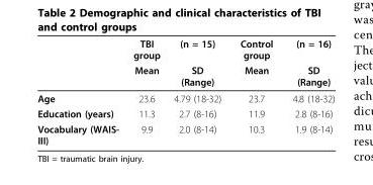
<table><thead><tr><td rowspan="2"></td><td rowspan="2">TBI group Mean</td><td rowspan="2">(n = 15) SD (Range)</td><td rowspan="2">Control group Mean</td><td rowspan="2">(n = 16) SD (Range)</td></tr><tr></tr></thead><tbody><tr><td>Age</td><td>23.6</td><td>4.79 (18-32)</td><td>23.7</td><td>4.8 (18-32)</td></tr><tr><td>Education (years)</td><td>11.3</td><td>2.7 (8-16)</td><td>11.9</td><td>2.8 (8-16)</td></tr><tr><td>Vocabulary (WAIS- III)</td><td>9.9</td><td>2.0 (8-14)</td><td>10.3</td><td>1.9 (8-14)</td></tr></tbody></table>